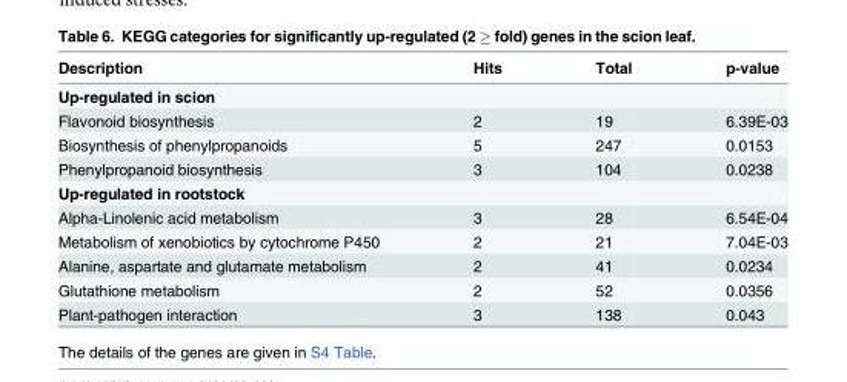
<table><thead><tr><td>Description</td><td>Hits</td><td>Total</td><td>p-value</td></tr></thead><tbody><tr><td colspan="4">Up-regulated in scion</td></tr><tr><td>Flavonoid biosynthesis</td><td>2</td><td>19</td><td>6.39E-03</td></tr><tr><td>Biosynthesis of phenylpropanoids</td><td>5</td><td>247</td><td>0.0153</td></tr><tr><td>Phenylpropanoid biosynthesis</td><td>3</td><td>104</td><td>0.0238</td></tr><tr><td colspan="4">Up-regulated in rootstock</td></tr><tr><td>Alpha-Linolenic acid metabolism</td><td>3</td><td>28</td><td>6.54E-04</td></tr><tr><td>Metabolism of xenobiotics by cytochrome P450</td><td>2</td><td>21</td><td>7.04E-03</td></tr><tr><td>Alanine, aspartate and glutamate metabolism</td><td>2</td><td>41</td><td>0.0234</td></tr><tr><td>Glutathione metabolism</td><td>2</td><td>52</td><td>0.0356</td></tr><tr><td>Plant-pathogen interaction</td><td>3</td><td>138</td><td>0.043</td></tr></tbody></table>